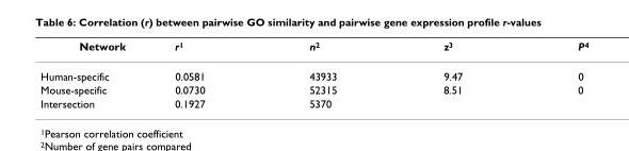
<table><thead><tr><td>Network</td><td>r<sup>1</sup></td><td>n<sup>2</sup></td><td>z<sup>3</sup></td><td>P<sup>4</sup></td></tr></thead><tbody><tr><td>Human-specific</td><td>0.0581</td><td>43933</td><td>9.47</td><td>0</td></tr><tr><td>Mouse-specific</td><td>0.0730</td><td>52315</td><td>8.51</td><td>0</td></tr><tr><td>Intersection</td><td>0.1927</td><td>5370</td><td></td><td></td></tr></tbody></table>